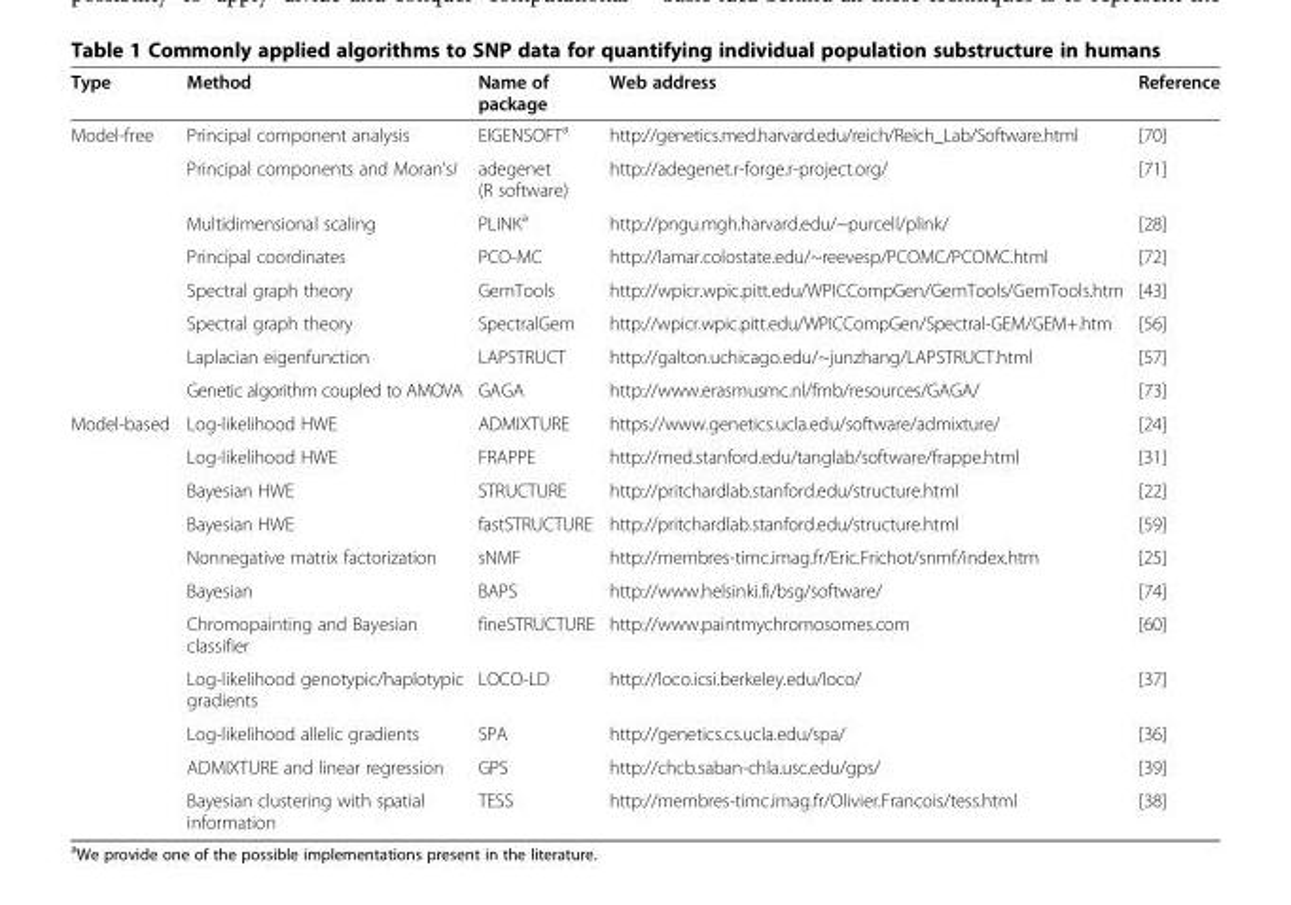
<table><thead><tr><td>Type</td><td>Method</td><td>Name of package</td><td>Web address</td><td>Reference</td></tr></thead><tbody><tr><td rowspan="8">Model-free</td><td>Principal component analysis</td><td>EIGENSOFT<sup>a</sup></td><td>http://genetics.med.harvard.edu/reich/Reich_Lab/Software.html</td><td>[70]</td></tr><tr><td>Principal components and Moran’sI</td><td>adegenet (R software)</td><td>http://adegenet.r-forge.r-project.org/</td><td>[71]</td></tr><tr><td>Multidimensional scaling</td><td>PLINK<sup>a</sup></td><td>http://pngu.mgh.harvard.edu/~purcell/plink/</td><td>[28]</td></tr><tr><td>Principal coordinates</td><td>PCO-MC</td><td>http://lamar.colostate.edu/~reevesp/PCOMC/PCOMC.html</td><td>[72]</td></tr><tr><td>Spectral graph theory</td><td>GemTools</td><td>http://wpicr.wpic.pitt.edu/WPICCompGen/GemTools/GemTools.htm</td><td>[43]</td></tr><tr><td>Spectral graph theory</td><td>SpectralGem</td><td>http://wpicr.wpic.pitt.edu/WPICCompGen/Spectral-GEM/GEM+.htm</td><td>[56]</td></tr><tr><td>Laplacian eigenfunction</td><td>LAPSTRUCT</td><td>http://galton.uchicago.edu/~junzhang/LAPSTRUCT.html</td><td>[57]</td></tr><tr><td>Genetic algorithm coupled to AMOVA</td><td>GAGA</td><td>http://www.erasmusmc.nl/fmb/resources/GAGA/</td><td>[73]</td></tr><tr><td rowspan="11">Model-based</td><td>Log-likelihood HWE</td><td>ADMIXTURE</td><td>https://www.genetics.ucla.edu/software/admixture/</td><td>[24]</td></tr><tr><td>Log-likelihood HWE</td><td>FRAPPE</td><td>http://med.stanford.edu/tanglab/software/frappe.html</td><td>[31]</td></tr><tr><td>Bayesian HWE</td><td>STRUCTURE</td><td>http://pritchardlab.stanford.edu/structure.html</td><td>[22]</td></tr><tr><td>Bayesian HWE</td><td>fastSTRUCTURE</td><td>http://pritchardlab.stanford.edu/structure.html</td><td>[59]</td></tr><tr><td>Nonnegative matrix factorization</td><td>sNMF</td><td>http://membres-timc.imag.fr/Eric.Frichot/snmf/index.htm</td><td>[25]</td></tr><tr><td>Bayesian</td><td>BAPS</td><td>http://www.helsinki.fi/bsg/software/</td><td>[74]</td></tr><tr><td>Chromopainting and Bayesian classifier</td><td>fineSTRUCTURE</td><td>http://www.paintmychromosomes.com</td><td>[60]</td></tr><tr><td>Log-likelihood genotypic/haplotypic gradients</td><td>LOCO-LD</td><td>http://loco.icsi.berkeley.edu/loco/</td><td>[37]</td></tr><tr><td>Log-likelihood allelic gradients</td><td>SPA</td><td>http://genetics.cs.ucla.edu/spa/</td><td>[36]</td></tr><tr><td>ADMIXTURE and linear regression</td><td>GPS</td><td>http://chcb.saban-chla.usc.edu/gps/</td><td>[39]</td></tr><tr><td>Bayesian clustering with spatial information</td><td>TESS</td><td>http://membres-timc.imag.fr/Olivier.Francois/tess.html</td><td>[38]</td></tr></tbody></table>